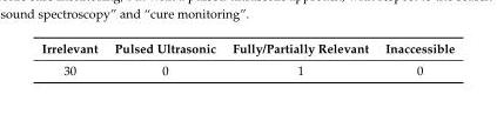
<table><thead><tr><td>Irrelevant</td><td>Pulsed Ultrasonic</td><td>Fully/Partially Relevant</td><td>Inaccessible</td></tr></thead><tbody><tr><td>30</td><td>0</td><td>1</td><td>0</td></tr></tbody></table>